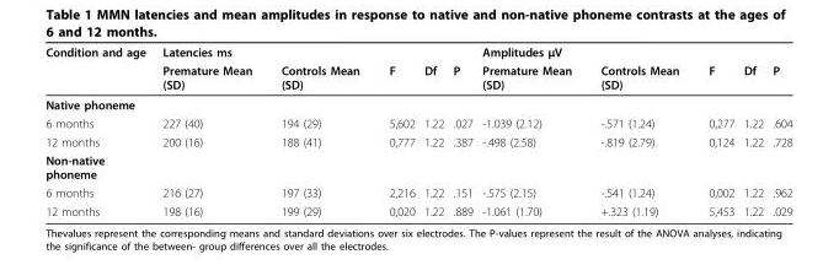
<table><thead><tr><td rowspan="2">Condition and age</td><td colspan="5">Latencies ms</td><td colspan="5">Amplitudes μV</td></tr><tr><td>Premature Mean (SD)</td><td>Controls Mean (SD)</td><td>F</td><td>Df</td><td>P</td><td>Premature Mean (SD)</td><td>Controls Mean (SD)</td><td>F</td><td>Df</td><td>P</td></tr></thead><tbody><tr><td colspan="11">Native phoneme</td></tr><tr><td>6 months</td><td>227 (40)</td><td>194 (29)</td><td>5,602</td><td>1.22</td><td>.027</td><td>-1.039 (2.12)</td><td>-.571 (1.24)</td><td>0,277</td><td>1.22</td><td>.604</td></tr><tr><td>12 months</td><td>200 (16)</td><td>188 (41)</td><td>0,777</td><td>1.22</td><td>.387</td><td>-.498 (2.58)</td><td>-.819 (2.79)</td><td>0,124</td><td>1.22</td><td>.728</td></tr><tr><td colspan="11">Non-native phoneme</td></tr><tr><td>6 months</td><td>216 (27)</td><td>197 (33)</td><td>2,216</td><td>1.22</td><td>.151</td><td>-.575 (2.15)</td><td>-.541 (1.24)</td><td>0,002</td><td>1.22</td><td>.962</td></tr><tr><td>12 months</td><td>198 (16)</td><td>199 (29)</td><td>0,020</td><td>1.22</td><td>.889</td><td>-1.061 (1.70)</td><td>+.323 (1.19)</td><td>5,453</td><td>1.22</td><td>.029</td></tr></tbody></table>